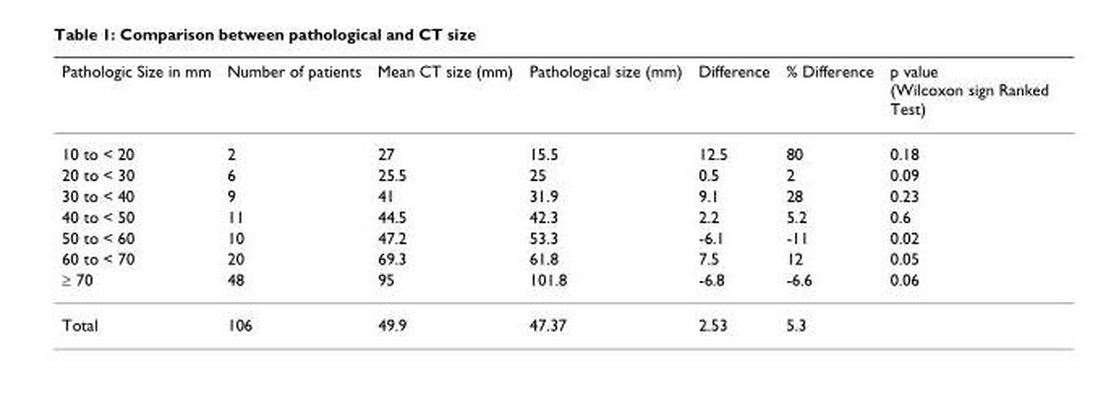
<table><thead><tr><td>Pathologic Size in mm</td><td>Number of patients</td><td>Mean CT size (mm)</td><td>Pathological size (mm)</td><td>Difference</td><td>% Difference</td><td>p value (Wilcoxon sign Ranked Test)</td></tr></thead><tbody><tr><td>10 to &lt; 20</td><td>2</td><td>27</td><td>15.5</td><td>12.5</td><td>80</td><td>0.18</td></tr><tr><td>20 to &lt; 30</td><td>6</td><td>25.5</td><td>25</td><td>0.5</td><td>2</td><td>0.09</td></tr><tr><td>30 to &lt; 40</td><td>9</td><td>41</td><td>31.9</td><td>9.1</td><td>28</td><td>0.23</td></tr><tr><td>40 to &lt; 50</td><td>11</td><td>44.5</td><td>42.3</td><td>2.2</td><td>5.2</td><td>0.6</td></tr><tr><td>50 to &lt; 60</td><td>10</td><td>47.2</td><td>53.3</td><td>-6.1</td><td>-11</td><td>0.02</td></tr><tr><td>60 to &lt; 70</td><td>20</td><td>69.3</td><td>61.8</td><td>7.5</td><td>12</td><td>0.05</td></tr><tr><td>≥ 70</td><td>48</td><td>95</td><td>101.8</td><td>-6.8</td><td>-6.6</td><td>0.06</td></tr><tr><td>Total</td><td>106</td><td>49.9</td><td>47.37</td><td>2.53</td><td>5.3</td><td></td></tr></tbody></table>